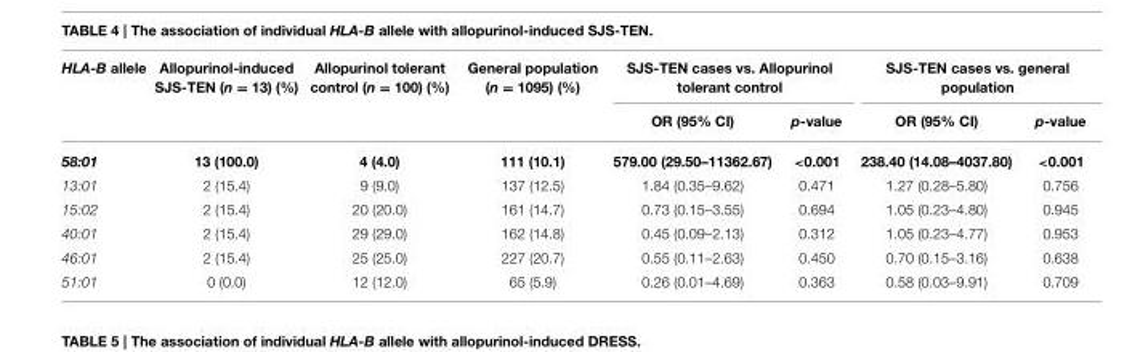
<table><thead><tr><td rowspan="2">HLA-B allele</td><td rowspan="2">Allopurinol-induced SJS-TEN (n = 13) (%)</td><td rowspan="2">Allopurinol tolerant control (n = 100) (%)</td><td rowspan="2">General population (n = 1095) (%)</td><td colspan="2">SJS-TEN cases vs. Allopurinol tolerant control</td><td colspan="2">SJS-TEN cases vs. general population</td></tr><tr><td>OR (95% CI)</td><td>p-value</td><td>OR (95% CI)</td><td>p-value</td></tr></thead><tbody><tr><td>58:01</td><td>13 (100.0)</td><td>4 (4.0)</td><td>111 (10.1)</td><td>579.00 (29.50–11362.67)</td><td>&lt;0.001</td><td>238.40 (14.08–4037.80)</td><td>&lt;0.001</td></tr><tr><td>13:01</td><td>2 (15.4)</td><td>9 (9.0)</td><td>137 (12.5)</td><td>1.84 (0.35–9.62)</td><td>0.471</td><td>1.27 (0.28–5.80)</td><td>0.756</td></tr><tr><td>15:02</td><td>2 (15.4)</td><td>20 (20.0)</td><td>161 (14.7)</td><td>0.73 (0.15–3.55)</td><td>0.694</td><td>1.05 (0.23–4.80)</td><td>0.945</td></tr><tr><td>40:01</td><td>2 (15.4)</td><td>29 (29.0)</td><td>162 (14.8)</td><td>0.45 (0.09–2.13)</td><td>0.312</td><td>1.05 (0.23–4.77)</td><td>0.953</td></tr><tr><td>46:01</td><td>2 (15.4)</td><td>25 (25.0)</td><td>227 (20.7)</td><td>0.55 (0.11–2.63)</td><td>0.450</td><td>0.70 (0.15–3.16)</td><td>0.638</td></tr><tr><td>51:01</td><td>0 (0.0)</td><td>12 (12.0)</td><td>65 (5.9)</td><td>0.26 (0.01–4.69)</td><td>0.363</td><td>0.58 (0.03–9.91)</td><td>0.709</td></tr></tbody></table>